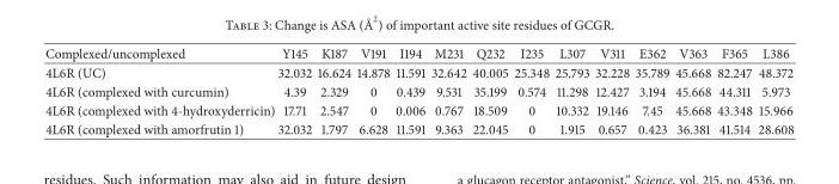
<table><thead><tr><td>Complexed/uncomplexed</td><td>Y145</td><td>K187</td><td>V191</td><td>I194</td><td>M231</td><td>Q232</td><td>I235</td><td>L307</td><td>V311</td><td>E362</td><td>V363</td><td>F365</td><td>L386</td></tr></thead><tbody><tr><td>4L6R (UC)</td><td>32.032</td><td>16.624</td><td>14.878</td><td>11.591</td><td>32.642</td><td>40.005</td><td>25.348</td><td>25.793</td><td>32.228</td><td>35.789</td><td>45.668</td><td>82.247</td><td>48.372</td></tr><tr><td>4L6R (complexed with curcumin)</td><td>4.39</td><td>2.329</td><td>0</td><td>0.439</td><td>9.531</td><td>35.199</td><td>0.574</td><td>11.298</td><td>12.427</td><td>3.194</td><td>45.668</td><td>44.311</td><td>5.973</td></tr><tr><td>4L6R (complexed with 4-hydroxyderricin)</td><td>17.71</td><td>2.547</td><td>0</td><td>0.006</td><td>0.767</td><td>18.509</td><td>0</td><td>10.332</td><td>19.146</td><td>7.45</td><td>45.668</td><td>43.348</td><td>15.966</td></tr><tr><td>4L6R (complexed with amorfrutin 1)</td><td>32.032</td><td>1.797</td><td>6.628</td><td>11.591</td><td>9.363</td><td>22.045</td><td>0</td><td>1.915</td><td>0.657</td><td>0.423</td><td>36.381</td><td>41.514</td><td>28.608</td></tr></tbody></table>